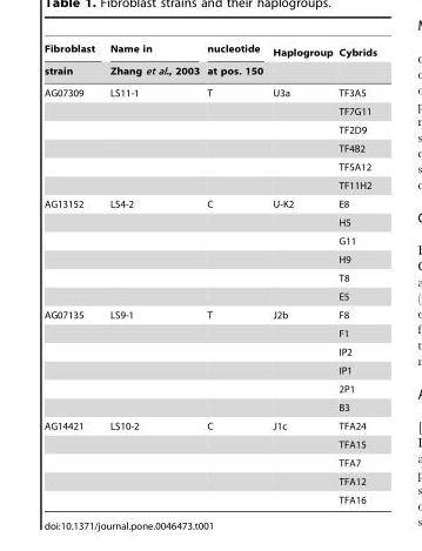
<table><thead><tr><td rowspan="2">Fibroblast strain</td><td rowspan="2">Name in Zhang et al., 2003</td><td rowspan="2">nucleotide at pos. 150</td><td rowspan="2">Haplogroup</td><td rowspan="2">Cybrids</td></tr><tr></tr></thead><tbody><tr><td rowspan="6">AG07309</td><td>LS11-1</td><td>T</td><td>U3a</td><td>TF3A5</td></tr><tr><td></td><td></td><td></td><td>TF7G11</td></tr><tr><td></td><td></td><td></td><td>TF2D9</td></tr><tr><td></td><td></td><td></td><td>TF4B2</td></tr><tr><td></td><td></td><td></td><td>TF5A12</td></tr><tr><td></td><td></td><td></td><td>TF11H2</td></tr><tr><td rowspan="6">AG13152</td><td>LS4-2</td><td>C</td><td>U-K2</td><td>E8</td></tr><tr><td></td><td></td><td></td><td>H5</td></tr><tr><td></td><td></td><td></td><td>G11</td></tr><tr><td></td><td></td><td></td><td>H9</td></tr><tr><td></td><td></td><td></td><td>T8</td></tr><tr><td></td><td></td><td></td><td>E5</td></tr><tr><td rowspan="6">AG07135</td><td>LS9-1</td><td>T</td><td>J2b</td><td>F8</td></tr><tr><td></td><td></td><td></td><td>F1</td></tr><tr><td></td><td></td><td></td><td>IP2</td></tr><tr><td></td><td></td><td></td><td>IP1</td></tr><tr><td></td><td></td><td></td><td>2P1</td></tr><tr><td></td><td></td><td></td><td>B3</td></tr><tr><td rowspan="5">AG14421</td><td>LS10-2</td><td>C</td><td>J1c</td><td>TFA24</td></tr><tr><td></td><td></td><td></td><td>TFA15</td></tr><tr><td></td><td></td><td></td><td>TFA7</td></tr><tr><td></td><td></td><td></td><td>TFA12</td></tr><tr><td></td><td></td><td></td><td>TFA16</td></tr></tbody></table>